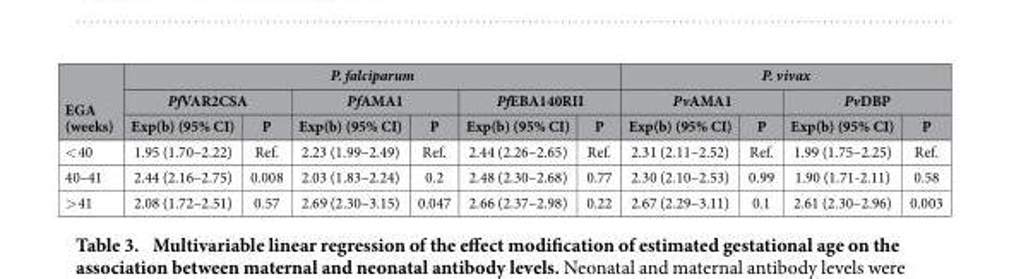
<table><thead><tr><td rowspan="3">EGA (weeks)</td><td colspan="6">P. falciparum</td><td colspan="4">P. vivax</td></tr><tr><td colspan="2">PfVAR2CSA</td><td colspan="2">PfAMA1</td><td colspan="2">PfEBA140RII</td><td colspan="2">PvAMA1</td><td colspan="2">PvDBP</td></tr><tr><td>Exp(b) (95% CI)</td><td>P</td><td>Exp(b) (95% CI)</td><td>P</td><td>Exp(b) (95% CI)</td><td>P</td><td>Exp(b) (95% CI)</td><td>P</td><td>Exp(b) (95% CI)</td><td>P</td></tr></thead><tbody><tr><td>&lt; 40</td><td>1.95 (1.70–2.22)</td><td>Ref.</td><td>2.23 (1.99–2.49)</td><td>Ref.</td><td>2.44 (2.26–2.65)</td><td>Ref.</td><td>2.31 (2.11–2.52)</td><td>Ref.</td><td>1.99 (1.75–2.25)</td><td>Ref.</td></tr><tr><td>40–41</td><td>2.44 (2.16–2.75)</td><td>0.008</td><td>2.03 (1.83–2.24)</td><td>0.2</td><td>2.48 (2.30–2.68)</td><td>0.77</td><td>2.30 (2.10–2.53)</td><td>0.99</td><td>1.90 (1.71-2.11)</td><td>0.58</td></tr><tr><td>&gt; 41</td><td>2.08 (1.72–2.51)</td><td>0.57</td><td>2.69 (2.30–3.15)</td><td>0.047</td><td>2.66 (2.37–2.98)</td><td>0.22</td><td>2.67 (2.29–3.11)</td><td>0.1</td><td>2.61 (2.30–2.96)</td><td>0.003</td></tr></tbody></table>